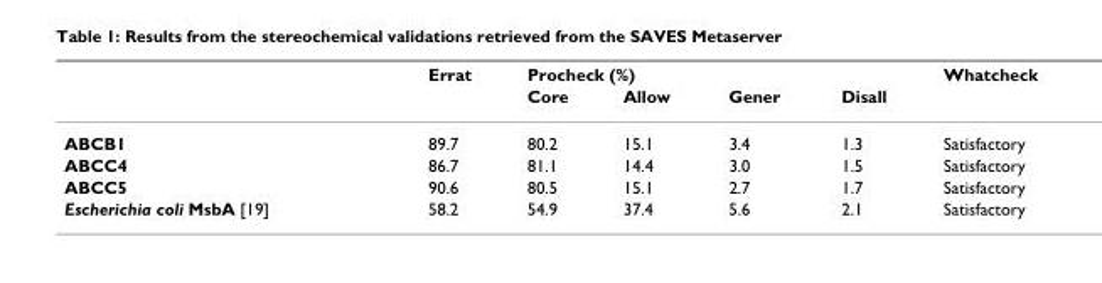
<table><thead><tr><td rowspan="2"></td><td rowspan="2">Errat</td><td colspan="4">Procheck (%)</td><td rowspan="2">Whatcheck</td></tr><tr><td>Core</td><td>Allow</td><td>Gener</td><td>Disall</td></tr></thead><tbody><tr><td>ABCB1</td><td>89.7</td><td>80.2</td><td>15.1</td><td>3.4</td><td>1.3</td><td>Satisfactory</td></tr><tr><td>ABCC4</td><td>86.7</td><td>81.1</td><td>14.4</td><td>3.0</td><td>1.5</td><td>Satisfactory</td></tr><tr><td>ABCC5</td><td>90.6</td><td>80.5</td><td>15.1</td><td>2.7</td><td>1.7</td><td>Satisfactory</td></tr><tr><td>Escherichia coli MsbA [19]</td><td>58.2</td><td>54.9</td><td>37.4</td><td>5.6</td><td>2.1</td><td>Satisfactory</td></tr></tbody></table>